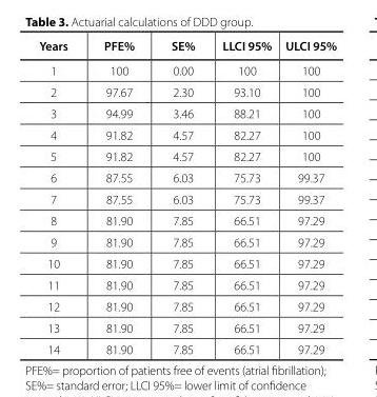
<table><thead><tr><td>Years</td><td>PFE%</td><td>SE%</td><td>LLCI 95%</td><td>ULCI 95%</td></tr></thead><tbody><tr><td>1</td><td>100</td><td>0.00</td><td>100</td><td>100</td></tr><tr><td>2</td><td>97.67</td><td>2.30</td><td>93.10</td><td>100</td></tr><tr><td>3</td><td>94.99</td><td>3.46</td><td>88.21</td><td>100</td></tr><tr><td>4</td><td>91.82</td><td>4.57</td><td>82.27</td><td>100</td></tr><tr><td>5</td><td>91.82</td><td>4.57</td><td>82.27</td><td>100</td></tr><tr><td>6</td><td>87.55</td><td>6.03</td><td>75.73</td><td>99.37</td></tr><tr><td>7</td><td>87.55</td><td>6.03</td><td>75.73</td><td>99.37</td></tr><tr><td>8</td><td>81.90</td><td>7.85</td><td>66.51</td><td>97.29</td></tr><tr><td>9</td><td>81.90</td><td>7.85</td><td>66.51</td><td>97.29</td></tr><tr><td>10</td><td>81.90</td><td>7.85</td><td>66.51</td><td>97.29</td></tr><tr><td>11</td><td>81.90</td><td>7.85</td><td>66.51</td><td>97.29</td></tr><tr><td>12</td><td>81.90</td><td>7.85</td><td>66.51</td><td>97.29</td></tr><tr><td>13</td><td>81.90</td><td>7.85</td><td>66.51</td><td>97.29</td></tr><tr><td>14</td><td>81.90</td><td>7.85</td><td>66.51</td><td>97.29</td></tr></tbody></table>